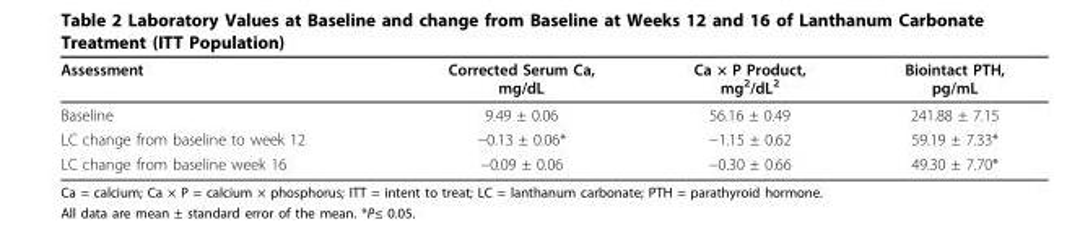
<table><thead><tr><td>Assessment</td><td>Corrected Serum Ca, mg/dL</td><td>Ca × P Product, mg<sup>2</sup>/dL<sup>2</sup></td><td>Biointact PTH, pg/mL</td></tr></thead><tbody><tr><td>Baseline</td><td>9.49 ± 0.06</td><td>56.16 ± 0.49</td><td>241.88 ± 7.15</td></tr><tr><td>LC change from baseline to week 12</td><td>−0.13 ± 0.06*</td><td>−1.15 ± 0.62</td><td>59.19 ± 7.33*</td></tr><tr><td>LC change from baseline week 16</td><td>−0.09 ± 0.06</td><td>−0.30 ± 0.66</td><td>49.30 ± 7.70*</td></tr></tbody></table>